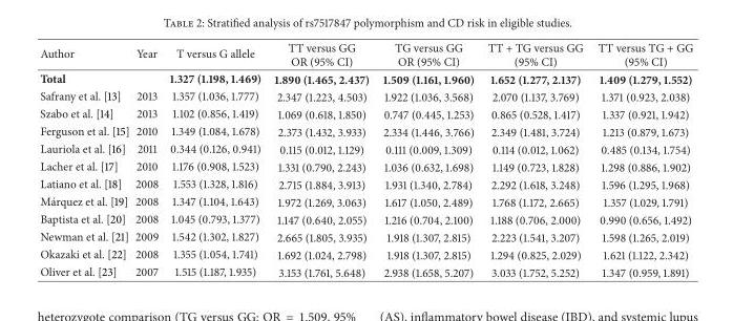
<table><thead><tr><td>Author</td><td>Year</td><td>T versus G allele</td><td>TT versus GG OR (95% CI)</td><td>TG versus GG OR (95% CI)</td><td>TT + TG versus GG (95% CI)</td><td>TT versus TG + GG (95% CI)</td></tr></thead><tbody><tr><td>Total</td><td></td><td>1.327 (1.198, 1.469)</td><td>1.890 (1.465, 2.437)</td><td>1.509 (1.161, 1.960)</td><td>1.652 (1.277, 2.137)</td><td>1.409 (1.279, 1.552)</td></tr><tr><td>Safrany et al. [13]</td><td>2013</td><td>1.357 (1.036, 1.777)</td><td>2.347 (1.223, 4.503)</td><td>1.922 (1.036, 3.568)</td><td>2.070 (1.137, 3.769)</td><td>1.371 (0.923, 2.038)</td></tr><tr><td>Szabo et al. [14]</td><td>2013</td><td>1.102 (0.856, 1.419)</td><td>1.069 (0.618, 1.850)</td><td>0.747 (0.445, 1.253)</td><td>0.865 (0.528, 1.417)</td><td>1.337 (0.921, 1.942)</td></tr><tr><td>Ferguson et al. [15]</td><td>2010</td><td>1.349 (1.084, 1.678)</td><td>2.373 (1.432, 3.933)</td><td>2.334 (1.446, 3.766)</td><td>2.349 (1.481, 3.724)</td><td>1.213 (0.879, 1.673)</td></tr><tr><td>Lauriola et al. [16]</td><td>2011</td><td>0.344 (0.126, 0.941)</td><td>0.115 (0.012, 1.129)</td><td>0.111 (0.009, 1.309)</td><td>0.114 (0.012, 1.062)</td><td>0.485 (0.134, 1.754)</td></tr><tr><td>Lacher et al. [17]</td><td>2010</td><td>1.176 (0.908, 1.523)</td><td>1.331 (0.790, 2.243)</td><td>1.036 (0.632, 1.698)</td><td>1.149 (0.723, 1.828)</td><td>1.298 (0.886, 1.902)</td></tr><tr><td>Latiano et al. [18]</td><td>2008</td><td>1.553 (1.328, 1.816)</td><td>2.715 (1.884, 3.913)</td><td>1.931 (1.340, 2.784)</td><td>2.292 (1.618, 3.248)</td><td>1.596 (1.295, 1.968)</td></tr><tr><td>M´arquez et al. [19]</td><td>2008</td><td>1.347 (1.104, 1.643)</td><td>1.972 (1.269, 3.063)</td><td>1.617 (1.050, 2.489)</td><td>1.768 (1.172, 2.665)</td><td>1.357 (1.029, 1.791)</td></tr><tr><td>Baptista et al. [20]</td><td>2008</td><td>1.045 (0.793, 1.377)</td><td>1.147 (0.640, 2.055)</td><td>1.216 (0.704, 2.100)</td><td>1.188 (0.706, 2.000)</td><td>0.990 (0.656, 1.492)</td></tr><tr><td>Newman et al. [21]</td><td>2009</td><td>1.542 (1.302, 1.827)</td><td>2.665 (1.805, 3.935)</td><td>1.918 (1.307, 2.815)</td><td>2.223 (1.541, 3.207)</td><td>1.598 (1.265, 2.019)</td></tr><tr><td>Okazaki et al. [22]</td><td>2008</td><td>1.355 (1.054, 1.741)</td><td>1.692 (1.024, 2.798)</td><td>1.918 (1.307, 2.815)</td><td>1.294 (0.825, 2.029)</td><td>1.621 (1.122, 2.342)</td></tr><tr><td>Oliver et al. [23]</td><td>2007</td><td>1.515 (1.187, 1.935)</td><td>3.153 (1.761, 5.648)</td><td>2.938 (1.658, 5.207)</td><td>3.033 (1.752, 5.252)</td><td>1.347 (0.959, 1.891)</td></tr></tbody></table>